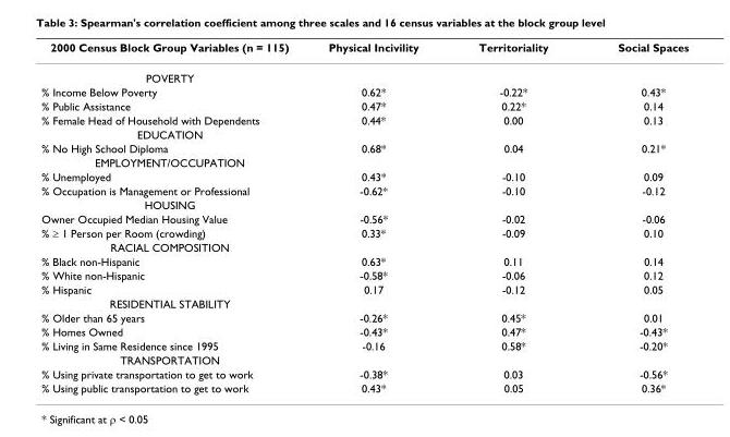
<table><thead><tr><td>2000 Census Block Group Variables (n = 115)</td><td>Physical Incivility</td><td>Territoriality</td><td>Social Spaces</td></tr></thead><tbody><tr><td colspan="4">POVERTY</td></tr><tr><td>% Income Below Poverty</td><td>0.62*</td><td>-0.22*</td><td>0.43*</td></tr><tr><td>% Public Assistance</td><td>0.47*</td><td>0.22*</td><td>0.14</td></tr><tr><td>% Female Head of Household with Dependents</td><td>0.44*</td><td>0.00</td><td>0.13</td></tr><tr><td colspan="4">EDUCATION</td></tr><tr><td>% No High School Diploma</td><td>0.68*</td><td>0.04</td><td>0.21*</td></tr><tr><td colspan="4">EMPLOYMENT/OCCUPATION</td></tr><tr><td>% Unemployed</td><td>0.43*</td><td>-0.10</td><td>0.09</td></tr><tr><td>% Occupation is Management or Professional</td><td>-0.62*</td><td>-0.10</td><td>-0.12</td></tr><tr><td colspan="4">HOUSING</td></tr><tr><td>Owner Occupied Median Housing Value</td><td>-0.56*</td><td>-0.02</td><td>-0.06</td></tr><tr><td>% ≥ 1 Person per Room (crowding)</td><td>0.33*</td><td>-0.09</td><td>0.10</td></tr><tr><td colspan="4">RACIAL COMPOSITION</td></tr><tr><td>% Black non-Hispanic</td><td>0.63*</td><td>0.11</td><td>0.14</td></tr><tr><td>% White non-Hispanic</td><td>-0.58*</td><td>-0.06</td><td>0.12</td></tr><tr><td>% Hispanic</td><td>0.17</td><td>-0.12</td><td>0.05</td></tr><tr><td colspan="4">RESIDENTIAL STABILITY</td></tr><tr><td>% Older than 65 years</td><td>-0.26*</td><td>0.45*</td><td>0.01</td></tr><tr><td>% Homes Owned</td><td>-0.43*</td><td>0.47*</td><td>-0.43*</td></tr><tr><td>% Living in Same Residence since 1995</td><td>-0.16</td><td>0.58*</td><td>-0.20*</td></tr><tr><td colspan="4">TRANSPORTATION</td></tr><tr><td>% Using private transportation to get to work</td><td>-0.38*</td><td>0.03</td><td>-0.56*</td></tr><tr><td>% Using public transportation to get to work</td><td>0.43*</td><td>0.05</td><td>0.36*</td></tr></tbody></table>